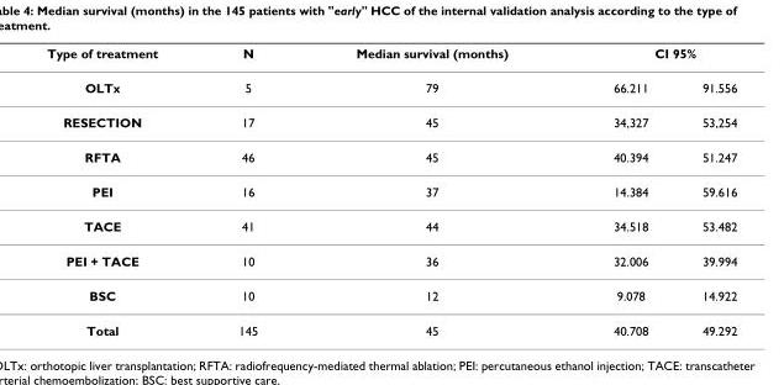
<table><thead><tr><td rowspan="2">Type of treatment OLTx</td><td rowspan="2">N 5</td><td rowspan="2">Median survival (months) 79</td><td colspan="2">CI 95%</td></tr><tr><td>66.211</td><td>91.556</td></tr></thead><tbody><tr><td>RESECTION</td><td>17</td><td>45</td><td>34,327</td><td>53,254</td></tr><tr><td>RFTA</td><td>46</td><td>45</td><td>40.394</td><td>51.247</td></tr><tr><td>PEI</td><td>16</td><td>37</td><td>14.384</td><td>59.616</td></tr><tr><td>TACE</td><td>41</td><td>44</td><td>34.518</td><td>53.482</td></tr><tr><td>PEI + TACE</td><td>10</td><td>36</td><td>32.006</td><td>39.994</td></tr><tr><td>BSC</td><td>10</td><td>12</td><td>9.078</td><td>14.922</td></tr><tr><td>Total</td><td>145</td><td>45</td><td>40.708</td><td>49.292</td></tr></tbody></table>